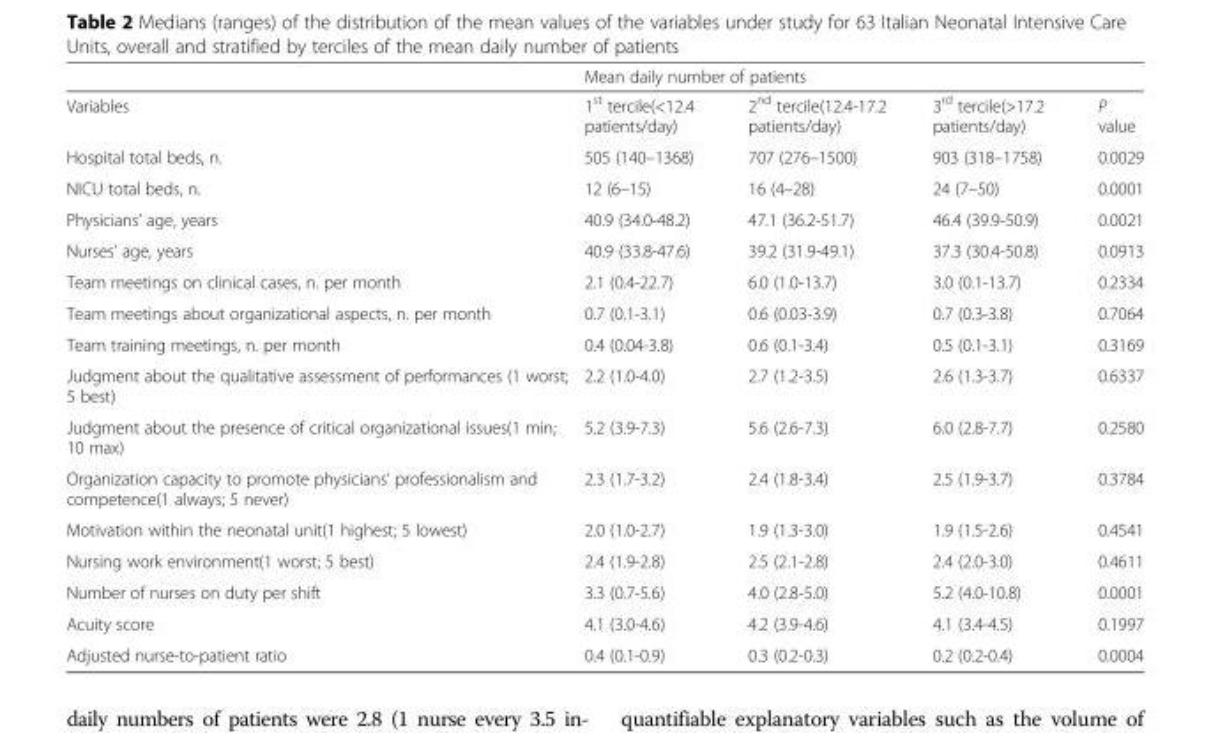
<table><thead><tr><td rowspan="2">Variables</td><td colspan="3">Mean daily number of patients</td><td rowspan="2">P value</td></tr><tr><td>1<sup>st</sup> tercile(&lt;12.4 patients/day)</td><td>2<sup>nd</sup> tercile(12.4-17.2 patients/day)</td><td>3<sup>rd</sup> tercile(&gt;17.2 patients/day)</td></tr></thead><tbody><tr><td>Hospital total beds, n.</td><td>505 (140–1368)</td><td>707 (276–1500)</td><td>903 (318–1758)</td><td>0.0029</td></tr><tr><td>NICU total beds, n.</td><td>12 (6–15)</td><td>16 (4–28)</td><td>24 (7–50)</td><td>0.0001</td></tr><tr><td>Physicians’ age, years</td><td>40.9 (34.0-48.2)</td><td>47.1 (36.2-51.7)</td><td>46.4 (39.9-50.9)</td><td>0.0021</td></tr><tr><td>Nurses’ age, years</td><td>40.9 (33.8-47.6)</td><td>39.2 (31.9-49.1)</td><td>37.3 (30.4-50.8)</td><td>0.0913</td></tr><tr><td>Team meetings on clinical cases, n. per month</td><td>2.1 (0.4-22.7)</td><td>6.0 (1.0-13.7)</td><td>3.0 (0.1-13.7)</td><td>0.2334</td></tr><tr><td>Team meetings about organizational aspects, n. per month</td><td>0.7 (0.1-3.1)</td><td>0.6 (0.03-3.9)</td><td>0.7 (0.3-3.8)</td><td>0.7064</td></tr><tr><td>Team training meetings, n. per month</td><td>0.4 (0.04-3.8)</td><td>0.6 (0.1-3.4)</td><td>0.5 (0.1-3.1)</td><td>0.3169</td></tr><tr><td>Judgment about the qualitative assessment of performances (1 worst; 5 best)</td><td>2.2 (1.0-4.0)</td><td>2.7 (1.2-3.5)</td><td>2.6 (1.3-3.7)</td><td>0.6337</td></tr><tr><td>Judgment about the presence of critical organizational issues(1 min; 10 max)</td><td>5.2 (3.9-7.3)</td><td>5.6 (2.6-7.3)</td><td>6.0 (2.8-7.7)</td><td>0.2580</td></tr><tr><td>Organization capacity to promote physicians’ professionalism and competence(1 always; 5 never)</td><td>2.3 (1.7-3.2)</td><td>2.4 (1.8-3.4)</td><td>2.5 (1.9-3.7)</td><td>0.3784</td></tr><tr><td>Motivation within the neonatal unit(1 highest; 5 lowest)</td><td>2.0 (1.0-2.7)</td><td>1.9 (1.3-3.0)</td><td>1.9 (1.5-2.6)</td><td>0.4541</td></tr><tr><td>Nursing work environment(1 worst; 5 best)</td><td>2.4 (1.9-2.8)</td><td>2.5 (2.1-2.8)</td><td>2.4 (2.0-3.0)</td><td>0.4611</td></tr><tr><td>Number of nurses on duty per shift</td><td>3.3 (0.7-5.6)</td><td>4.0 (2.8-5.0)</td><td>5.2 (4.0-10.8)</td><td>0.0001</td></tr><tr><td>Acuity score</td><td>4.1 (3.0-4.6)</td><td>4.2 (3.9-4.6)</td><td>4.1 (3.4-4.5)</td><td>0.1997</td></tr><tr><td>Adjusted nurse-to-patient ratio</td><td>0.4 (0.1-0.9)</td><td>0.3 (0.2-0.3)</td><td>0.2 (0.2-0.4)</td><td>0.0004</td></tr></tbody></table>